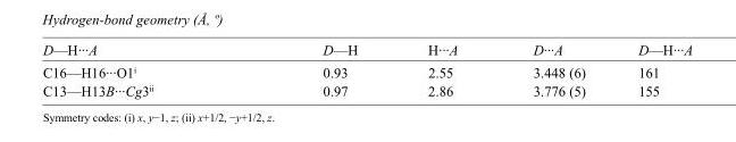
<table><tbody><tr><td>D—H···A</td><td>D—H</td><td>H···A</td><td>D···A</td><td>D—H···A</td></tr><tr><td>C16—H16···O1<sup>i</sup></td><td>0.93</td><td>2.55</td><td>3.448 (6)</td><td>161</td></tr><tr><td>C13—H13B···Cg3<sup>ii</sup></td><td>0.97</td><td>2.86</td><td>3.776 (5)</td><td>155</td></tr></tbody></table>